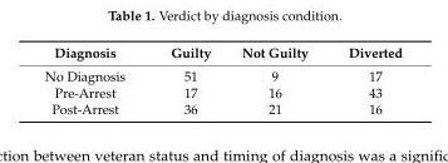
<table><thead><tr><td>Diagnosis</td><td>Guilty</td><td>Not Guilty</td><td>Diverted</td></tr></thead><tbody><tr><td>No Diagnosis</td><td>51</td><td>9</td><td>17</td></tr><tr><td>Pre-Arrest</td><td>17</td><td>16</td><td>43</td></tr><tr><td>Post-Arrest</td><td>36</td><td>21</td><td>16</td></tr></tbody></table>